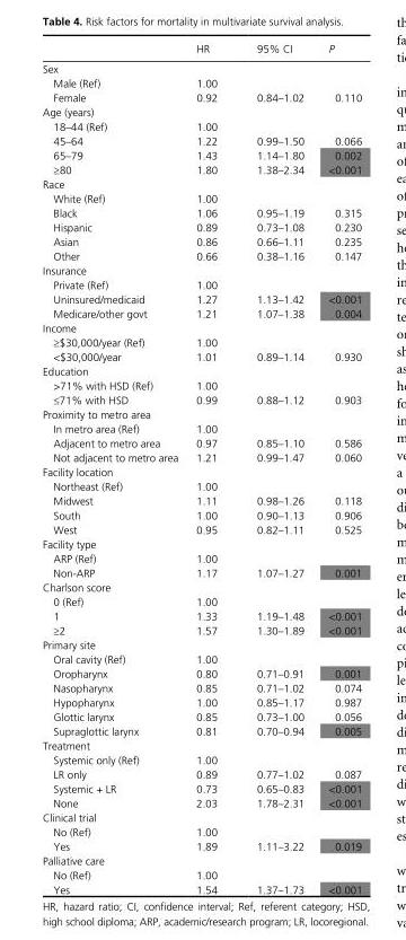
<table><thead><tr><td></td><td>HR</td><td>95% CI</td><td>P</td></tr></thead><tbody><tr><td colspan="4">Sex</td></tr><tr><td>Male (Ref)</td><td>1.00</td><td></td><td></td></tr><tr><td>Female</td><td>0.92</td><td>0.84–1.02</td><td>0.110</td></tr><tr><td colspan="4">Age (years)</td></tr><tr><td>18–44 (Ref)</td><td>1.00</td><td></td><td></td></tr><tr><td>45–64</td><td>1.22</td><td>0.99–1.50</td><td>0.066</td></tr><tr><td>65–79</td><td>1.43</td><td>1.14–1.80</td><td>0.002</td></tr><tr><td>≥80</td><td>1.80</td><td>1.38–2.34</td><td>&lt;0.001</td></tr><tr><td colspan="4">Race</td></tr><tr><td>White (Ref)</td><td>1.00</td><td></td><td></td></tr><tr><td>Black</td><td>1.06</td><td>0.95–1.19</td><td>0.315</td></tr><tr><td>Hispanic</td><td>0.89</td><td>0.73–1.08</td><td>0.230</td></tr><tr><td>Asian</td><td>0.86</td><td>0.66–1.11</td><td>0.235</td></tr><tr><td>Other</td><td>0.66</td><td>0.38–1.16</td><td>0.147</td></tr><tr><td colspan="4">Insurance</td></tr><tr><td>Private (Ref)</td><td>1.00</td><td></td><td></td></tr><tr><td>Uninsured/medicaid</td><td>1.27</td><td>1.13–1.42</td><td>&lt;0.001</td></tr><tr><td>Medicare/other govt</td><td>1.21</td><td>1.07–1.38</td><td>0.004</td></tr><tr><td colspan="4">Income</td></tr><tr><td>≥$30,000/year (Ref)</td><td>1.00</td><td></td><td></td></tr><tr><td>&lt;$30,000/year</td><td>1.01</td><td>0.89–1.14</td><td>0.930</td></tr><tr><td colspan="4">Education</td></tr><tr><td>&gt;71% with HSD (Ref)</td><td>1.00</td><td></td><td></td></tr><tr><td>≤71% with HSD</td><td>0.99</td><td>0.88–1.12</td><td>0.903</td></tr><tr><td colspan="4">Proximity to metro area</td></tr><tr><td>In metro area (Ref)</td><td>1.00</td><td></td><td></td></tr><tr><td>Adjacent to metro area</td><td>0.97</td><td>0.85–1.10</td><td>0.586</td></tr><tr><td>Not adjacent to metro area</td><td>1.21</td><td>0.99–1.47</td><td>0.060</td></tr><tr><td colspan="4">Facility location</td></tr><tr><td>Northeast (Ref)</td><td>1.00</td><td></td><td></td></tr><tr><td>Midwest</td><td>1.11</td><td>0.98–1.26</td><td>0.118</td></tr><tr><td>South</td><td>1.00</td><td>0.90–1.13</td><td>0.906</td></tr><tr><td>West</td><td>0.95</td><td>0.82–1.11</td><td>0.525</td></tr><tr><td colspan="4">Facility type</td></tr><tr><td>ARP (Ref)</td><td>1.00</td><td></td><td></td></tr><tr><td>Non- ARP</td><td>1.17</td><td>1.07–1.27</td><td>0.001</td></tr><tr><td colspan="4">Charlson score</td></tr><tr><td>0 (Ref)</td><td>1.00</td><td></td><td></td></tr><tr><td>1</td><td>1.33</td><td>1.19–1.48</td><td>&lt;0.001</td></tr><tr><td>≥2</td><td>1.57</td><td>1.30–1.89</td><td>&lt;0.001</td></tr><tr><td colspan="4">Primary site</td></tr><tr><td>Oral cavity (Ref)</td><td>1.00</td><td></td><td></td></tr><tr><td>Oropharynx</td><td>0.80</td><td>0.71–0.91</td><td>0.001</td></tr><tr><td>Nasopharynx</td><td>0.85</td><td>0.71–1.02</td><td>0.074</td></tr><tr><td>Hypopharynx</td><td>1.00</td><td>0.85–1.17</td><td>0.987</td></tr><tr><td>Glottic larynx</td><td>0.85</td><td>0.73–1.00</td><td>0.056</td></tr><tr><td>Supraglottic larynx</td><td>0.81</td><td>0.70–0.94</td><td>0.005</td></tr><tr><td colspan="4">Treatment</td></tr><tr><td>Systemic only (Ref)</td><td>1.00</td><td></td><td></td></tr><tr><td>LR only</td><td>0.89</td><td>0.77–1.02</td><td>0.087</td></tr><tr><td>Systemic + LR</td><td>0.73</td><td>0.65–0.83</td><td>&lt;0.001</td></tr><tr><td>None</td><td>2.03</td><td>1.78–2.31</td><td>&lt;0.001</td></tr><tr><td colspan="4">Clinical trial</td></tr><tr><td>No (Ref)</td><td>1.00</td><td></td><td></td></tr><tr><td>Yes</td><td>1.89</td><td>1.11–3.22</td><td>0.019</td></tr><tr><td colspan="4">Palliative care</td></tr><tr><td>No (Ref)</td><td>1.00</td><td></td><td></td></tr><tr><td>Yes</td><td>1.54</td><td>1.37–1.73</td><td>&lt;0.001</td></tr></tbody></table>